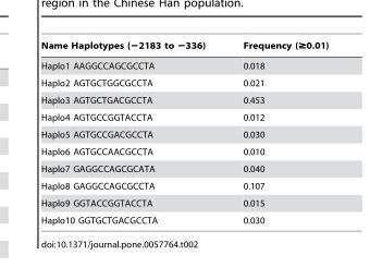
<table><thead><tr><td>Name Haplotypes (−2183 to −336)</td><td>Frequency (≥0.01)</td></tr></thead><tbody><tr><td>Haplo1 AAGGCCAGCGCCTA</td><td>0.018</td></tr><tr><td>Haplo2 AGTGCTGGCGCCTA</td><td>0.021</td></tr><tr><td>Haplo3 AGTGCTGACGCCTA</td><td>0.453</td></tr><tr><td>Haplo4 AGTGCCGGTACCTA</td><td>0.012</td></tr><tr><td>Haplo5 AGTGCCGACGCCTA</td><td>0.030</td></tr><tr><td>Haplo6 AGTGCCAACGCCTA</td><td>0.010</td></tr><tr><td>Haplo7 GAGGCCAGCGCATA</td><td>0.040</td></tr><tr><td>Haplo8 GAGGCCAGCGCCTA</td><td>0.107</td></tr><tr><td>Haplo9 GGTACCGGTACCTA</td><td>0.015</td></tr><tr><td>Haplo10 GGTGCTGACGCCTA</td><td>0.030</td></tr></tbody></table>